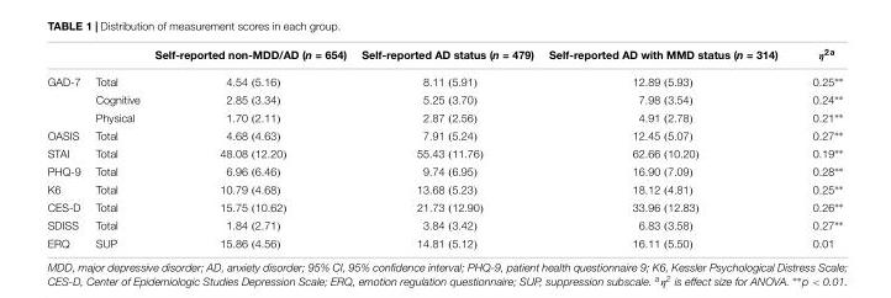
<table><thead><tr><td></td><td></td><td>Self-reported non-MDD/AD (n = 654)</td><td>Self-reported AD status (n = 479)</td><td>Self-reported AD with MMD status (n = 314)</td><td>η<sup>2a</sup></td></tr></thead><tbody><tr><td rowspan="3">GAD-7</td><td>Total</td><td>4.54 (5.16)</td><td>8.11 (5.91)</td><td>12.89 (5.93)</td><td>0.25∗∗</td></tr><tr><td>Cognitive</td><td>2.85 (3.34)</td><td>5.25 (3.70)</td><td>7.98 (3.54)</td><td>0.24∗∗</td></tr><tr><td>Physical</td><td>1.70 (2.11)</td><td>2.87 (2.56)</td><td>4.91 (2.78)</td><td>0.21∗∗</td></tr><tr><td>OASIS</td><td>Total</td><td>4.68 (4.63)</td><td>7.91 (5.24)</td><td>12.45 (5.07)</td><td>0.27∗∗</td></tr><tr><td>STAI</td><td>Total</td><td>48.08 (12.20)</td><td>55.43 (11.76)</td><td>62.66 (10.20)</td><td>0.19∗∗</td></tr><tr><td>PHQ-9</td><td>Total</td><td>6.96 (6.46)</td><td>9.74 (6.95)</td><td>16.90 (7.09)</td><td>0.28∗∗</td></tr><tr><td>K6</td><td>Total</td><td>10.79 (4.68)</td><td>13.68 (5.23)</td><td>18.12 (4.81)</td><td>0.25∗∗</td></tr><tr><td>CES-D</td><td>Total</td><td>15.75 (10.62)</td><td>21.73 (12.90)</td><td>33.96 (12.83)</td><td>0.26∗∗</td></tr><tr><td>SDISS</td><td>Total</td><td>1.84 (2.71)</td><td>3.84 (3.42)</td><td>6.83 (3.58)</td><td>0.27∗∗</td></tr><tr><td>ERQ</td><td>SUP</td><td>15.86 (4.56)</td><td>14.81 (5.12)</td><td>16.11 (5.50)</td><td>0.01</td></tr></tbody></table>